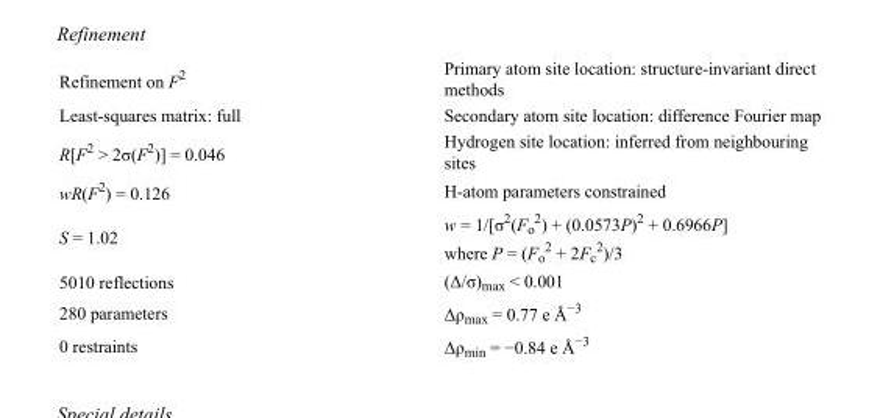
<table><tbody><tr><td>Refinement on F<sup>2</sup></td><td>Primary atom site location: structure-invariant direct methods</td></tr><tr><td>Least-squares matrix: full</td><td>Secondary atom site location: difference Fourier map</td></tr><tr><td>R[F<sup>2</sup> &gt; 2σ(F<sup>2</sup>)] = 0.046</td><td>Hydrogen site location: inferred from neighbouring sites</td></tr><tr><td>wR(F<sup>2</sup>) = 0.126</td><td>H-atom parameters constrained</td></tr><tr><td>S = 1.02</td><td>w = 1/[σ<sup>2</sup>(F<sub>o</sub> <sup>2</sup>) + (0.0573P)<sup>2</sup> + 0.6966P] where P = (F<sub>o</sub> <sup>2</sup> + 2F<sub>c</sub> <sup>2</sup>)/3</td></tr><tr><td>5010 reflections</td><td>(Δ/σ)<sub>max</sub> &lt; 0.001</td></tr><tr><td>280 parameters</td><td>Δρ<sub>max</sub> = 0.77 e Å<sup>−3</sup></td></tr><tr><td>0 restraints</td><td>Δρ<sub>min</sub> = −0.84 e Å<sup>−3</sup></td></tr></tbody></table>